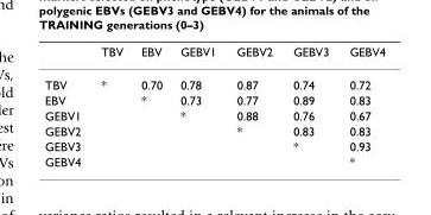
<table><thead><tr><td></td><td>TBV</td><td>EBV</td><td>GEBV1</td><td>GEBV2</td><td>GEBV3</td><td>GEBV4</td></tr></thead><tbody><tr><td>TBV</td><td>*</td><td>0.70</td><td>0.78</td><td>0.87</td><td>0.74</td><td>0.72</td></tr><tr><td>EBV</td><td></td><td>*</td><td>0.73</td><td>0.77</td><td>0.89</td><td>0.83</td></tr><tr><td>GEBV1</td><td></td><td></td><td>*</td><td>0.88</td><td>0.76</td><td>0.67</td></tr><tr><td>GEBV2</td><td></td><td></td><td></td><td>*</td><td>0.83</td><td>0.83</td></tr><tr><td>GEBV3</td><td></td><td></td><td></td><td></td><td>*</td><td>0.93</td></tr><tr><td>GEBV4</td><td></td><td></td><td></td><td></td><td></td><td>*</td></tr></tbody></table>